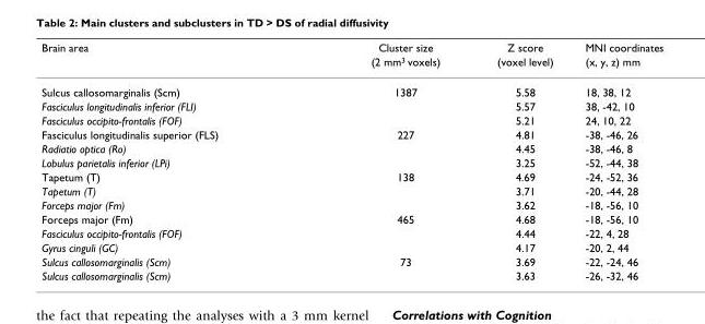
<table><thead><tr><td rowspan="2">Brain area</td><td rowspan="2">Cluster size (2 mm<sup>3</sup> voxels)</td><td rowspan="2">Z score (voxel level)</td><td rowspan="2">MNI coordinates (x, y, z) mm</td></tr><tr></tr></thead><tbody><tr><td>Sulcus callosomarginalis (Scm)</td><td>1387</td><td>5.58</td><td>18, 38, 12</td></tr><tr><td>Fasciculus longitudinalis inferior (FLI)</td><td></td><td>5.57</td><td>38, -42, 10</td></tr><tr><td>Fasciculus occipito-frontalis (FOF)</td><td></td><td>5.21</td><td>24, 10, 22</td></tr><tr><td>Fasciculus longitudinalis superior (FLS)</td><td>227</td><td>4.81</td><td>-38, -46, 26</td></tr><tr><td>Radiatio optica (Ro)</td><td></td><td>4.45</td><td>-38, -46, 8</td></tr><tr><td>Lobulus parietalis inferior (LPi)</td><td></td><td>3.25</td><td>-52, -44, 38</td></tr><tr><td>Tapetum (T)</td><td>138</td><td>4.69</td><td>-24, -52, 36</td></tr><tr><td>Tapetum (T)</td><td></td><td>3.71</td><td>-20, -44, 28</td></tr><tr><td>Forceps major (Fm)</td><td></td><td>3.62</td><td>-18, -56, 10</td></tr><tr><td>Forceps major (Fm)</td><td>465</td><td>4.68</td><td>-18, -56, 10</td></tr><tr><td>Fasciculus occipito-frontalis (FOF)</td><td></td><td>4.44</td><td>-22, 4, 28</td></tr><tr><td>Gyrus cinguli (GC)</td><td></td><td>4.17</td><td>-20, 2, 44</td></tr><tr><td>Sulcus callosomarginalis (Scm)</td><td>73</td><td>3.69</td><td>-22, -24, 46</td></tr><tr><td>Sulcus callosomarginalis (Scm)</td><td></td><td>3.63</td><td>-26, -32, 46</td></tr></tbody></table>